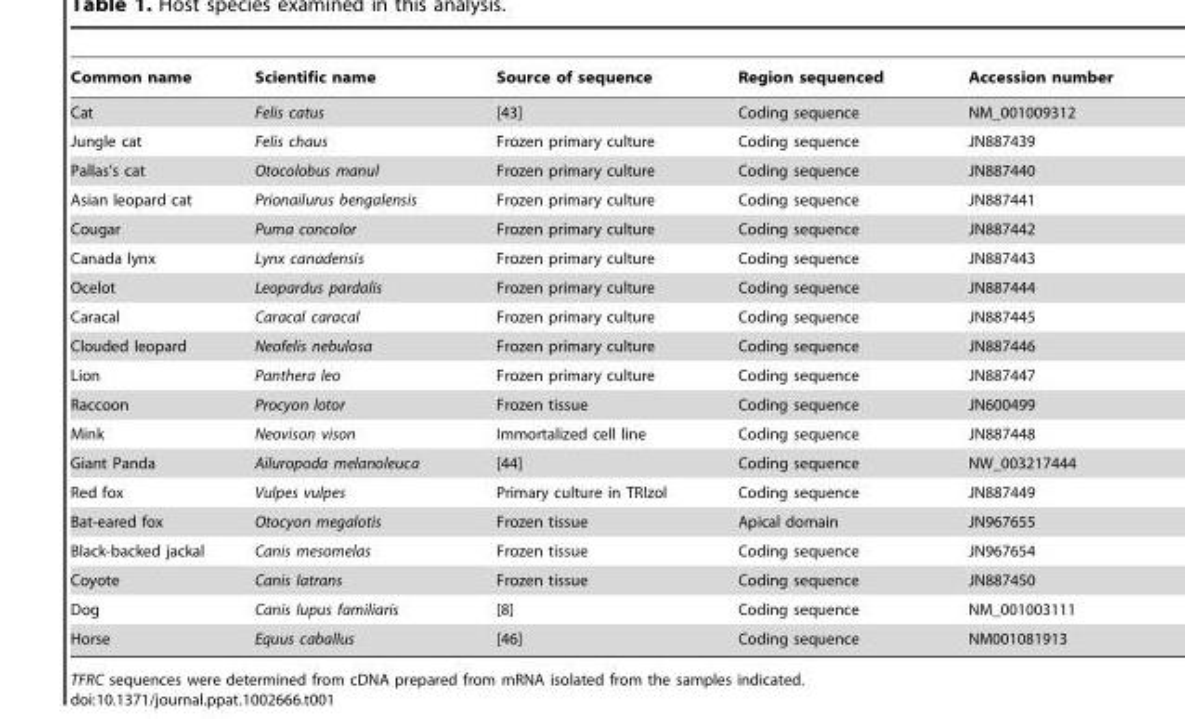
<table><thead><tr><td>Common name</td><td>Scientific name</td><td>Source of sequence</td><td>Region sequenced</td><td>Accession number</td></tr></thead><tbody><tr><td>Cat</td><td>Felis catus</td><td>[43]</td><td>Coding sequence</td><td>NM_001009312</td></tr><tr><td>Jungle cat</td><td>Felis chaus</td><td>Frozen primary culture</td><td>Coding sequence</td><td>JN887439</td></tr><tr><td>Pallas’s cat</td><td>Otocolobus manul</td><td>Frozen primary culture</td><td>Coding sequence</td><td>JN887440</td></tr><tr><td>Asian leopard cat</td><td>Prionailurus bengalensis</td><td>Frozen primary culture</td><td>Coding sequence</td><td>JN887441</td></tr><tr><td>Cougar</td><td>Puma concolor</td><td>Frozen primary culture</td><td>Coding sequence</td><td>JN887442</td></tr><tr><td>Canada lynx</td><td>Lynx canadensis</td><td>Frozen primary culture</td><td>Coding sequence</td><td>JN887443</td></tr><tr><td>Ocelot</td><td>Leopardus pardalis</td><td>Frozen primary culture</td><td>Coding sequence</td><td>JN887444</td></tr><tr><td>Caracal</td><td>Caracal caracal</td><td>Frozen primary culture</td><td>Coding sequence</td><td>JN887445</td></tr><tr><td>Clouded leopard</td><td>Neofelis nebulosa</td><td>Frozen primary culture</td><td>Coding sequence</td><td>JN887446</td></tr><tr><td>Lion</td><td>Panthera leo</td><td>Frozen primary culture</td><td>Coding sequence</td><td>JN887447</td></tr><tr><td>Raccoon</td><td>Procyon lotor</td><td>Frozen tissue</td><td>Coding sequence</td><td>JN600499</td></tr><tr><td>Mink</td><td>Neovison vison</td><td>Immortalized cell line</td><td>Coding sequence</td><td>JN887448</td></tr><tr><td>Giant Panda</td><td>Ailuropoda melanoleuca</td><td>[44]</td><td>Coding sequence</td><td>NW_003217444</td></tr><tr><td>Red fox</td><td>Vulpes vulpes</td><td>Primary culture in TRIzol</td><td>Coding sequence</td><td>JN887449</td></tr><tr><td>Bat-eared fox</td><td>Otocyon megalotis</td><td>Frozen tissue</td><td>Apical domain</td><td>JN967655</td></tr><tr><td>Black-backed jackal</td><td>Canis mesomelas</td><td>Frozen tissue</td><td>Coding sequence</td><td>JN967654</td></tr><tr><td>Coyote</td><td>Canis latrans</td><td>Frozen tissue</td><td>Coding sequence</td><td>JN887450</td></tr><tr><td>Dog</td><td>Canis lupus familiaris</td><td>[8]</td><td>Coding sequence</td><td>NM_001003111</td></tr><tr><td>Horse</td><td>Equus caballus</td><td>[46]</td><td>Coding sequence</td><td>NM001081913</td></tr></tbody></table>